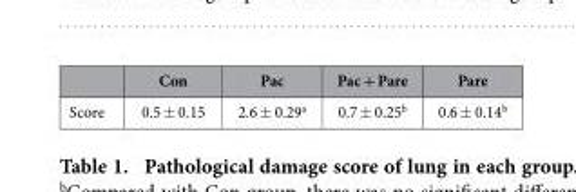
<table><thead><tr><td></td><td>Con</td><td>Pac</td><td>Pac + Pare</td><td>Pare</td></tr></thead><tbody><tr><td>Score</td><td>0.5 ± 0.15</td><td>2.6 ± 0.29<sup>a</sup></td><td>0.7 ± 0.25<sup>b</sup></td><td>0.6 ± 0.14<sup>b</sup></td></tr></tbody></table>